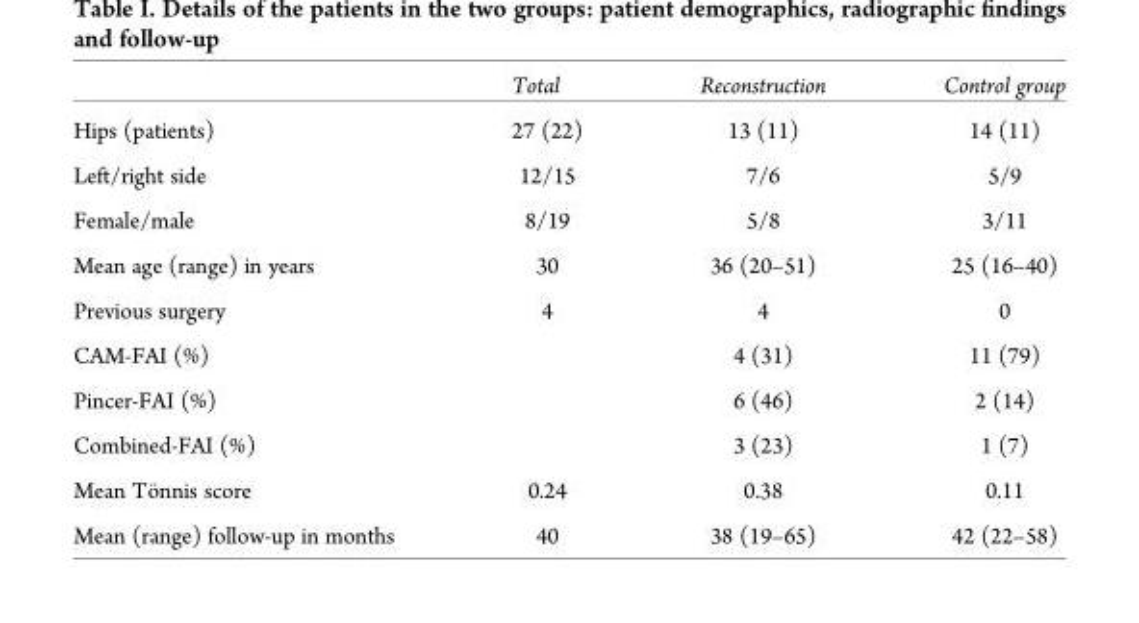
<table><thead><tr><td></td><td>Total</td><td>Reconstruction</td><td>Control group</td></tr></thead><tbody><tr><td>Hips (patients)</td><td>27 (22)</td><td>13 (11)</td><td>14 (11)</td></tr><tr><td>Left/right side</td><td>12/15</td><td>7/6</td><td>5/9</td></tr><tr><td>Female/male</td><td>8/19</td><td>5/8</td><td>3/11</td></tr><tr><td>Mean age (range) in years</td><td>30</td><td>36 (20–51)</td><td>25 (16–40)</td></tr><tr><td>Previous surgery</td><td>4</td><td>4</td><td>0</td></tr><tr><td>CAM-FAI (%)</td><td></td><td>4 (31)</td><td>11 (79)</td></tr><tr><td>Pincer-FAI (%)</td><td></td><td>6 (46)</td><td>2 (14)</td></tr><tr><td>Combined-FAI (%)</td><td></td><td>3 (23)</td><td>1 (7)</td></tr><tr><td>Mean To¨nnis score</td><td>0.24</td><td>0.38</td><td>0.11</td></tr><tr><td>Mean (range) follow-up in months</td><td>40</td><td>38 (19–65)</td><td>42 (22–58)</td></tr></tbody></table>